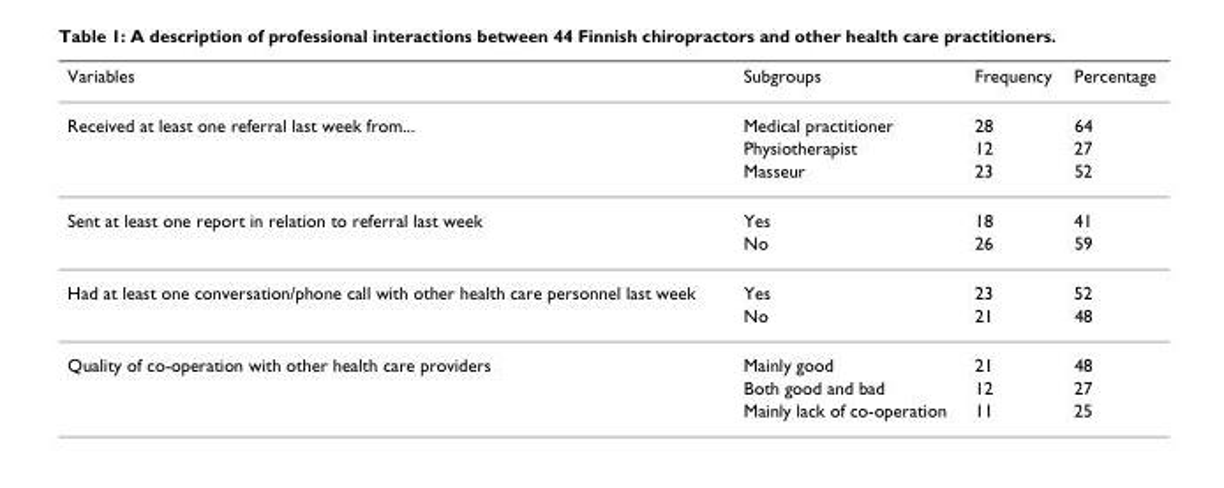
<table><thead><tr><td>Variables</td><td>Subgroups</td><td>Frequency</td><td>Percentage</td></tr></thead><tbody><tr><td rowspan="3">Received at least one referral last week from...</td><td>Medical practitioner</td><td>28</td><td>64</td></tr><tr><td>Physiotherapist</td><td>12</td><td>27</td></tr><tr><td>Masseur</td><td>23</td><td>52</td></tr><tr><td rowspan="2">Sent at least one report in relation to referral last week</td><td>Yes</td><td>18</td><td>41</td></tr><tr><td>No</td><td>26</td><td>59</td></tr><tr><td rowspan="2">Had at least one conversation/phone call with other health care personnel last week</td><td>Yes</td><td>23</td><td>52</td></tr><tr><td>No</td><td>21</td><td>48</td></tr><tr><td rowspan="3">Quality of co-operation with other health care providers</td><td>Mainly good</td><td>21</td><td>48</td></tr><tr><td>Both good and bad</td><td>12</td><td>27</td></tr><tr><td>Mainly lack of co-operation</td><td>11</td><td>25</td></tr></tbody></table>